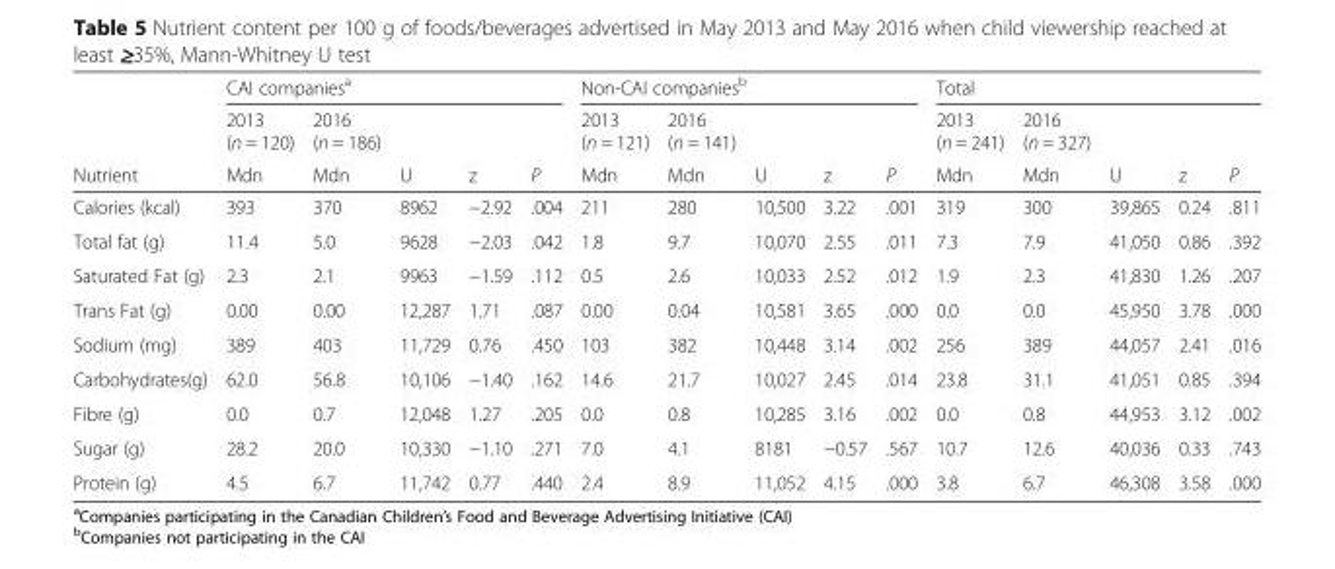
<table><thead><tr><td rowspan="3">Nutrient</td><td colspan="5">CAI companies<sup>a</sup></td><td colspan="5">Non-CAI companies<sup>b</sup></td><td colspan="5">Total</td></tr><tr><td rowspan="2">2013 (n = 120) Mdn</td><td rowspan="2">2016 (n = 186) Mdn</td><td rowspan="2">U</td><td rowspan="2">z</td><td rowspan="2">P</td><td rowspan="2">2013 (n = 121) Mdn</td><td rowspan="2">2016 (n = 141) Mdn</td><td rowspan="2">U</td><td rowspan="2">z</td><td rowspan="2">P</td><td rowspan="2">2013 (n = 241) Mdn</td><td rowspan="2">2016 (n = 327) Mdn</td><td rowspan="2">U</td><td rowspan="2">z</td><td rowspan="2">P</td></tr><tr></tr></thead><tbody><tr><td>Calories (kcal)</td><td>393</td><td>370</td><td>8962</td><td>−2.92</td><td>.004</td><td>211</td><td>280</td><td>10,500</td><td>3.22</td><td>.001</td><td>319</td><td>300</td><td>39,865</td><td>0.24</td><td>.811</td></tr><tr><td>Total fat (g)</td><td>11.4</td><td>5.0</td><td>9628</td><td>−2.03</td><td>.042</td><td>1.8</td><td>9.7</td><td>10,070</td><td>2.55</td><td>.011</td><td>7.3</td><td>7.9</td><td>41,050</td><td>0.86</td><td>.392</td></tr><tr><td>Saturated Fat (g)</td><td>2.3</td><td>2.1</td><td>9963</td><td>−1.59</td><td>.112</td><td>0.5</td><td>2.6</td><td>10,033</td><td>2.52</td><td>.012</td><td>1.9</td><td>2.3</td><td>41,830</td><td>1.26</td><td>.207</td></tr><tr><td>Trans Fat (g)</td><td>0.00</td><td>0.00</td><td>12,287</td><td>1.71</td><td>.087</td><td>0.00</td><td>0.04</td><td>10,581</td><td>3.65</td><td>.000</td><td>0.0</td><td>0.0</td><td>45,950</td><td>3.78</td><td>.000</td></tr><tr><td>Sodium (mg)</td><td>389</td><td>403</td><td>11,729</td><td>0.76</td><td>.450</td><td>103</td><td>382</td><td>10,448</td><td>3.14</td><td>.002</td><td>256</td><td>389</td><td>44,057</td><td>2.41</td><td>.016</td></tr><tr><td>Carbohydrates(g)</td><td>62.0</td><td>56.8</td><td>10,106</td><td>−1.40</td><td>.162</td><td>14.6</td><td>21.7</td><td>10,027</td><td>2.45</td><td>.014</td><td>23.8</td><td>31.1</td><td>41,051</td><td>0.85</td><td>.394</td></tr><tr><td>Fibre (g)</td><td>0.0</td><td>0.7</td><td>12,048</td><td>1.27</td><td>.205</td><td>0.0</td><td>0.8</td><td>10,285</td><td>3.16</td><td>.002</td><td>0.0</td><td>0.8</td><td>44,953</td><td>3.12</td><td>.002</td></tr><tr><td>Sugar (g)</td><td>28.2</td><td>20.0</td><td>10,330</td><td>−1.10</td><td>.271</td><td>7.0</td><td>4.1</td><td>8181</td><td>−0.57</td><td>.567</td><td>10.7</td><td>12.6</td><td>40,036</td><td>0.33</td><td>.743</td></tr><tr><td>Protein (g)</td><td>4.5</td><td>6.7</td><td>11,742</td><td>0.77</td><td>.440</td><td>2.4</td><td>8.9</td><td>11,052</td><td>4.15</td><td>.000</td><td>3.8</td><td>6.7</td><td>46,308</td><td>3.58</td><td>.000</td></tr></tbody></table>